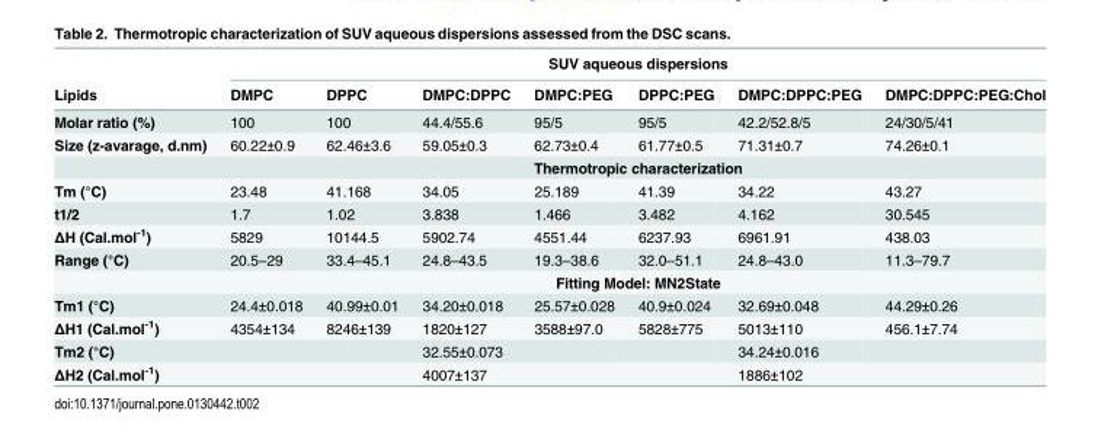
<table><thead><tr><td rowspan="2">Lipids</td><td colspan="7">SUV aqueous dispersions</td></tr><tr><td>DMPC</td><td>DPPC</td><td>DMPC:DPPC</td><td>DMPC:PEG</td><td>DPPC:PEG</td><td>DMPC:DPPC:PEG</td><td>DMPC:DPPC:PEG:Chol</td></tr></thead><tbody><tr><td>Molar ratio (%)</td><td>100</td><td>100</td><td>44.4/55.6</td><td>95/5</td><td>95/5</td><td>42.2/52.8/5</td><td>24/30/5/41</td></tr><tr><td rowspan="2">Size (z-avarage, d.nm)</td><td>60.22±0.9</td><td>62.46±3.6</td><td>59.05±0.3</td><td>62.73±0.4</td><td>61.77±0.5</td><td>71.31±0.7</td><td>74.26±0.1</td></tr><tr><td colspan="7">Thermotropic characterization</td></tr><tr><td>Tm (°C)</td><td>23.48</td><td>41.168</td><td>34.05</td><td>25.189</td><td>41.39</td><td>34.22</td><td>43.27</td></tr><tr><td>t1/2</td><td>1.7</td><td>1.02</td><td>3.838</td><td>1.466</td><td>3.482</td><td>4.162</td><td>30.545</td></tr><tr><td>ΔH (Cal.mol<sup>-1</sup>)</td><td>5829</td><td>10144.5</td><td>5902.74</td><td>4551.44</td><td>6237.93</td><td>6961.91</td><td>438.03</td></tr><tr><td rowspan="2">Range (°C)</td><td>20.5–29</td><td>33.4–45.1</td><td>24.8–43.5</td><td>19.3–38.6</td><td>32.0–51.1</td><td>24.8–43.0</td><td>11.3–79.7</td></tr><tr><td colspan="7">Fitting Model: MN2State</td></tr><tr><td>Tm1 (°C)</td><td>24.4±0.018</td><td>40.99±0.01</td><td>34.20±0.018</td><td>25.57±0.028</td><td>40.9±0.024</td><td>32.69±0.048</td><td>44.29±0.26</td></tr><tr><td>ΔH1 (Cal.mol<sup>-1</sup>)</td><td>4354±134</td><td>8246±139</td><td>1820±127</td><td>3588±97.0</td><td>5828±775</td><td>5013±110</td><td>456.1±7.74</td></tr><tr><td>Tm2 (°C)</td><td></td><td></td><td>32.55±0.073</td><td></td><td></td><td>34.24±0.016</td><td></td></tr><tr><td>ΔH2 (Cal.mol<sup>-1</sup>)</td><td></td><td></td><td>4007±137</td><td></td><td></td><td>1886±102</td><td></td></tr></tbody></table>